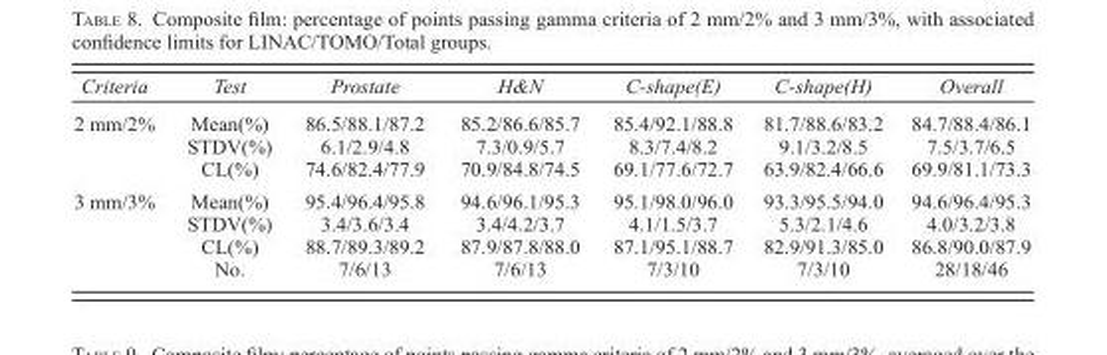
<table><thead><tr><td>Criteria</td><td>Test</td><td>Prostate</td><td>H&amp;N</td><td>C-shape(E)</td><td>C-shape(H)</td><td>Overall</td></tr></thead><tbody><tr><td rowspan="3">2 mm/2%</td><td>Mean(%)</td><td>86.5/88.1/87.2</td><td>85.2/86.6/85.7</td><td>85.4/92.1/88.8</td><td>81.7/88.6/83.2</td><td>84.7/88.4/86.1</td></tr><tr><td>STDV(%)</td><td>6.1/2.9/4.8</td><td>7.3/0.9/5.7</td><td>8.3/7.4/8.2</td><td>9.1/3.2/8.5</td><td>7.5/3.7/6.5</td></tr><tr><td>CL(%)</td><td>74.6/82.4/77.9</td><td>70.9/84.8/74.5</td><td>69.1/77.6/72.7</td><td>63.9/82.4/66.6</td><td>69.9/81.1/73.3</td></tr><tr><td rowspan="4">3 mm/3%</td><td>Mean(%)</td><td>95.4/96.4/95.8</td><td>94.6/96.1/95.3</td><td>95.1/98.0/96.0</td><td>93.3/95.5/94.0</td><td>94.6/96.4/95.3</td></tr><tr><td>STDV(%)</td><td>3.4/3.6/3.4</td><td>3.4/4.2/3.7</td><td>4.1/1.5/3.7</td><td>5.3/2.1/4.6</td><td>4.0/3.2/3.8</td></tr><tr><td>CL(%)</td><td>88.7/89.3/89.2</td><td>87.9/87.8/88.0</td><td>87.1/95.1/88.7</td><td>82.9/91.3/85.0</td><td>86.8/90.0/87.9</td></tr><tr><td>No.</td><td>7/6/13</td><td>7/6/13</td><td>7/3/10</td><td>7/3/10</td><td>28/18/46</td></tr></tbody></table>